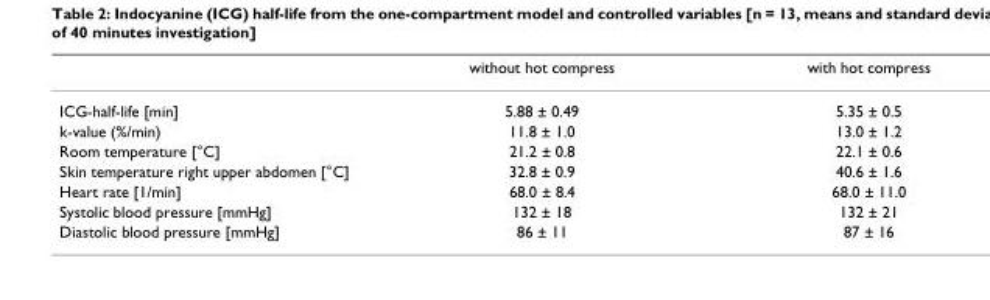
<table><thead><tr><td></td><td>without hot compress</td><td>with hot compress</td></tr></thead><tbody><tr><td>ICG-half-life [min]</td><td>5.88 ± 0.49</td><td>5.35 ± 0.5</td></tr><tr><td>k-value (%/min)</td><td>11.8 ± 1.0</td><td>13.0 ± 1.2</td></tr><tr><td>Room temperature [°C]</td><td>21.2 ± 0.8</td><td>22.1 ± 0.6</td></tr><tr><td>Skin temperature right upper abdomen [°C]</td><td>32.8 ± 0.9</td><td>40.6 ± 1.6</td></tr><tr><td>Heart rate [1/min]</td><td>68.0 ± 8.4</td><td>68.0 ± 11.0</td></tr><tr><td>Systolic blood pressure [mmHg]</td><td>132 ± 18</td><td>132 ± 21</td></tr><tr><td>Diastolic blood pressure [mmHg]</td><td>86 ± 11</td><td>87 ± 16</td></tr></tbody></table>